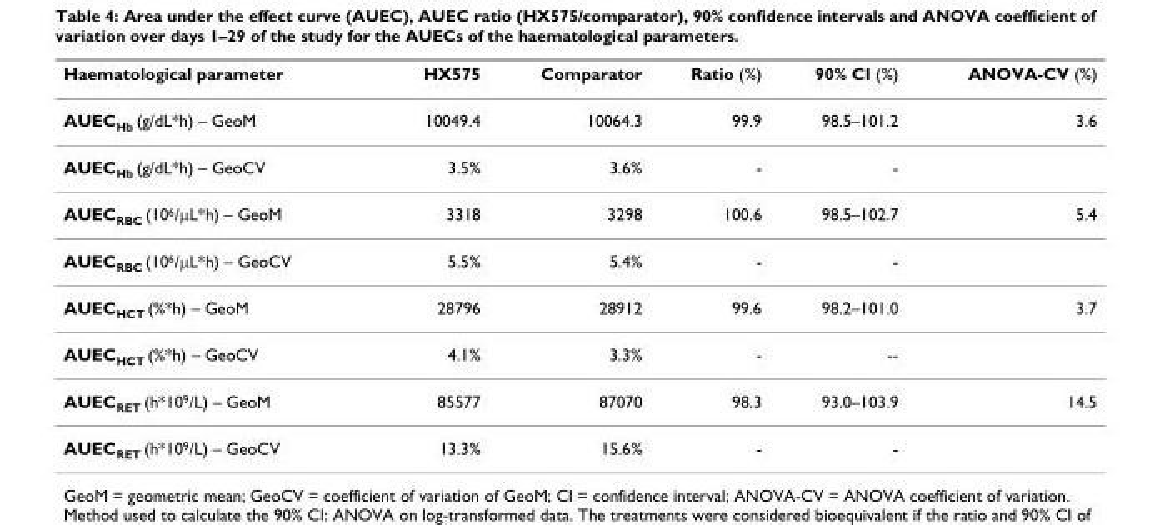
<table><thead><tr><td>Haematological parameter</td><td>HX575</td><td>Comparator</td><td>Ratio (%)</td><td>90% CI (%)</td><td>ANOVA-CV (%)</td></tr></thead><tbody><tr><td>AUEC<sub>Hb</sub> (g/dL*h) – GeoM</td><td>10049.4</td><td>10064.3</td><td>99.9</td><td>98.5–101.2</td><td>3.6</td></tr><tr><td>AUEC<sub>Hb</sub> (g/dL*h) – GeoCV</td><td>3.5%</td><td>3.6%</td><td>-</td><td>-</td><td></td></tr><tr><td>AUEC<sub>RBC</sub> (10<sup>6</sup>/μL*h) – GeoM</td><td>3318</td><td>3298</td><td>100.6</td><td>98.5–102.7</td><td>5.4</td></tr><tr><td>AUEC<sub>RBC</sub> (10<sup>6</sup>/μL*h) – GeoCV</td><td>5.5%</td><td>5.4%</td><td>-</td><td>-</td><td></td></tr><tr><td>AUEC<sub>HCT</sub> (%*h) – GeoM</td><td>28796</td><td>28912</td><td>99.6</td><td>98.2–101.0</td><td>3.7</td></tr><tr><td>AUEC<sub>HCT</sub> (%*h) – GeoCV</td><td>4.1%</td><td>3.3%</td><td>-</td><td>--</td><td></td></tr><tr><td>AUEC<sub>RET</sub> (h*10<sup>9</sup>/L) – GeoM</td><td>85577</td><td>87070</td><td>98.3</td><td>93.0–103.9</td><td>14.5</td></tr><tr><td>AUEC<sub>RET</sub> (h*10<sup>9</sup>/L) – GeoCV</td><td>13.3%</td><td>15.6%</td><td>-</td><td>-</td><td></td></tr></tbody></table>